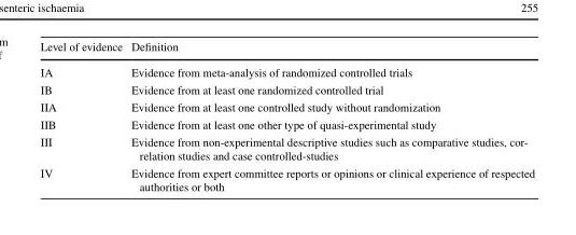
<table><thead><tr><td>Level of evidence</td><td>Definition</td></tr></thead><tbody><tr><td>IA</td><td>Evidence from meta-analysis of randomized controlled trials</td></tr><tr><td>IB</td><td>Evidence from at least one randomized controlled trial</td></tr><tr><td>IIA</td><td>Evidence from at least one controlled study without randomization</td></tr><tr><td>IIB</td><td>Evidence from at least one other type of quasi-experimental study</td></tr><tr><td>III</td><td>Evidence from non-experimental descriptive studies such as comparative studies, cor- relation studies and case controlled-studies</td></tr><tr><td>IV</td><td>Evidence from expert committee reports or opinions or clinical experience of respected authorities or both</td></tr></tbody></table>